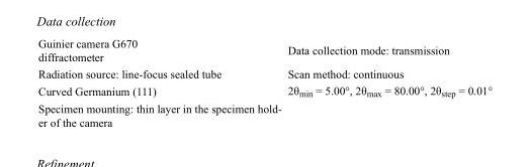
<table><tbody><tr><td>Guinier camera G670 diffractometer</td><td>Data collection mode: transmission</td></tr><tr><td>Radiation source: line-focus sealed tube</td><td>Scan method: continuous</td></tr><tr><td>Curved Germanium (111)</td><td>2θ<sub>min</sub> = 5.00°, 2θ<sub>max</sub> = 80.00°, 2θ<sub>step</sub> = 0.01°</td></tr><tr><td>Specimen mounting: thin layer in the specimen hold- er of the camera</td><td></td></tr></tbody></table>